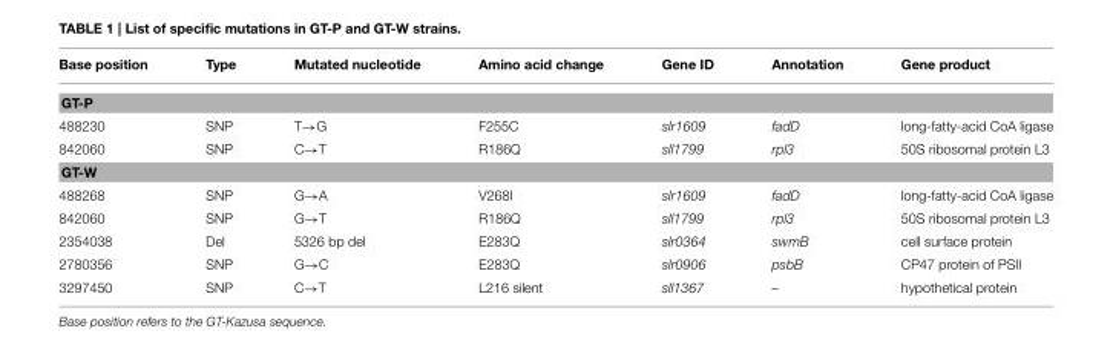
<table><thead><tr><td>Base position</td><td>Type</td><td>Mutated nucleotide</td><td>Amino acid change</td><td>Gene ID</td><td>Annotation</td><td>Gene product</td></tr></thead><tbody><tr><td colspan="7">GT-P</td></tr><tr><td>488230</td><td>SNP</td><td>T→G</td><td>F255C</td><td>slr1609</td><td>fadD</td><td>long-fatty-acid CoA ligase</td></tr><tr><td>842060</td><td>SNP</td><td>C→T</td><td>R186Q</td><td>sll1799</td><td>rpl3</td><td>50S ribosomal protein L3</td></tr><tr><td colspan="7">GT-W</td></tr><tr><td>488268</td><td>SNP</td><td>G→A</td><td>V268I</td><td>slr1609</td><td>fadD</td><td>long-fatty-acid CoA ligase</td></tr><tr><td>842060</td><td>SNP</td><td>G→T</td><td>R186Q</td><td>sll1799</td><td>rpl3</td><td>50S ribosomal protein L3</td></tr><tr><td>2354038</td><td>Del</td><td>5326 bp del</td><td>E283Q</td><td>slr0364</td><td>swmB</td><td>cell surface protein</td></tr><tr><td>2780356</td><td>SNP</td><td>G→C</td><td>E283Q</td><td>slr0906</td><td>psbB</td><td>CP47 protein of PSII</td></tr><tr><td>3297450</td><td>SNP</td><td>C→T</td><td>L216 silent</td><td>sll1367</td><td>–</td><td>hypothetical protein</td></tr></tbody></table>